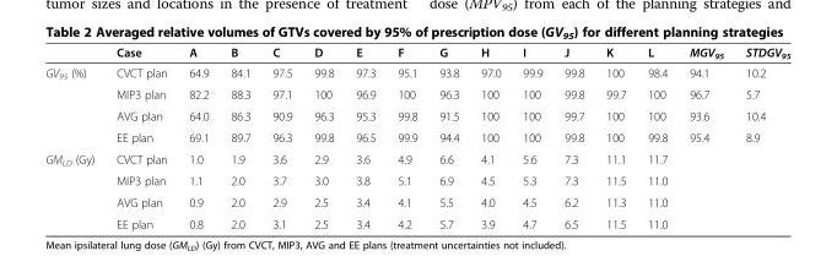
<table><thead><tr><td></td><td>Case</td><td>A</td><td>B</td><td>C</td><td>D</td><td>E</td><td>F</td><td>G</td><td>H</td><td>I</td><td>J</td><td>K</td><td>L</td><td>MGV<sub>95</sub></td><td>STDGV<sub>95</sub></td></tr></thead><tbody><tr><td rowspan="4">GV<sub>95</sub> (%)</td><td>CVCT plan</td><td>64.9</td><td>84.1</td><td>97.5</td><td>99.8</td><td>97.3</td><td>95.1</td><td>93.8</td><td>97.0</td><td>99.9</td><td>99.8</td><td>100</td><td>98.4</td><td>94.1</td><td>10.2</td></tr><tr><td>MIP3 plan</td><td>82.2</td><td>88.3</td><td>97.1</td><td>100</td><td>96.9</td><td>100</td><td>96.3</td><td>100</td><td>100</td><td>99.8</td><td>99.7</td><td>100</td><td>96.7</td><td>5.7</td></tr><tr><td>AVG plan</td><td>64.0</td><td>86.3</td><td>90.9</td><td>96.3</td><td>95.3</td><td>99.8</td><td>91.5</td><td>100</td><td>100</td><td>99.7</td><td>100</td><td>100</td><td>93.6</td><td>10.4</td></tr><tr><td>EE plan</td><td>69.1</td><td>89.7</td><td>96.3</td><td>99.8</td><td>96.5</td><td>99.9</td><td>94.4</td><td>100</td><td>100</td><td>99.8</td><td>100</td><td>99.8</td><td>95.4</td><td>8.9</td></tr><tr><td rowspan="4">GM<sub>LD</sub> (Gy)</td><td>CVCT plan</td><td>1.0</td><td>1.9</td><td>3.6</td><td>2.9</td><td>3.6</td><td>4.9</td><td>6.6</td><td>4.1</td><td>5.6</td><td>7.3</td><td>11.1</td><td>11.7</td><td></td><td></td></tr><tr><td>MIP3 plan</td><td>1.1</td><td>2.0</td><td>3.7</td><td>3.0</td><td>3.8</td><td>5.1</td><td>6.9</td><td>4.5</td><td>5.3</td><td>7.3</td><td>11.5</td><td>11.0</td><td></td><td></td></tr><tr><td>AVG plan</td><td>0.9</td><td>2.0</td><td>2.9</td><td>2.5</td><td>3.4</td><td>4.1</td><td>5.5</td><td>4.0</td><td>4.5</td><td>6.2</td><td>11.3</td><td>11.0</td><td></td><td></td></tr><tr><td>EE plan</td><td>0.8</td><td>2.0</td><td>3.1</td><td>2.5</td><td>3.4</td><td>4.2</td><td>5.7</td><td>3.9</td><td>4.7</td><td>6.5</td><td>11.5</td><td>11.0</td><td></td><td></td></tr></tbody></table>